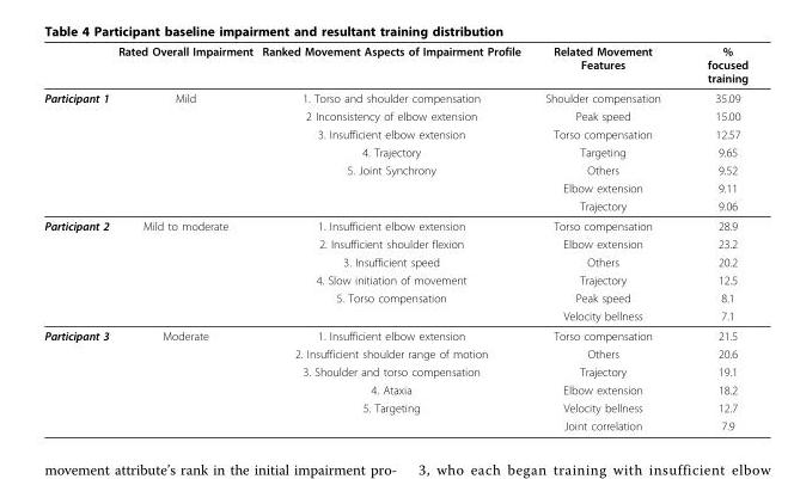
<table><thead><tr><td></td><td>Rated Overall Impairment</td><td>Ranked Movement Aspects of Impairment Profile</td><td>Related Movement Features</td><td>% focused training</td></tr></thead><tbody><tr><td rowspan="7">Participant 1</td><td>Mild</td><td>1. Torso and shoulder compensation</td><td>Shoulder compensation</td><td>35.09</td></tr><tr><td></td><td>2 Inconsistency of elbow extension</td><td>Peak speed</td><td>15.00</td></tr><tr><td></td><td>3. Insufficient elbow extension</td><td>Torso compensation</td><td>12.57</td></tr><tr><td></td><td>4. Trajectory</td><td>Targeting</td><td>9.65</td></tr><tr><td></td><td>5. Joint Synchrony</td><td>Others</td><td>9.52</td></tr><tr><td></td><td></td><td>Elbow extension</td><td>9.11</td></tr><tr><td></td><td></td><td>Trajectory</td><td>9.06</td></tr><tr><td rowspan="6">Participant 2</td><td>Mild to moderate</td><td>1. Insufficient elbow extension</td><td>Torso compensation</td><td>28.9</td></tr><tr><td></td><td>2. Insufficient shoulder flexion</td><td>Elbow extension</td><td>23.2</td></tr><tr><td></td><td>3. Insufficient speed</td><td>Others</td><td>20.2</td></tr><tr><td></td><td>4. Slow initiation of movement</td><td>Trajectory</td><td>12.5</td></tr><tr><td></td><td>5. Torso compensation</td><td>Peak speed</td><td>8.1</td></tr><tr><td></td><td></td><td>Velocity bellness</td><td>7.1</td></tr><tr><td rowspan="6">Participant 3</td><td>Moderate</td><td>1. Insufficient elbow extension</td><td>Torso compensation</td><td>21.5</td></tr><tr><td></td><td>2. Insufficient shoulder range of motion</td><td>Others</td><td>20.6</td></tr><tr><td></td><td>3. Shoulder and torso compensation</td><td>Trajectory</td><td>19.1</td></tr><tr><td></td><td>4. Ataxia</td><td>Elbow extension</td><td>18.2</td></tr><tr><td></td><td>5. Targeting</td><td>Velocity bellness</td><td>12.7</td></tr><tr><td></td><td></td><td>Joint correlation</td><td>7.9</td></tr></tbody></table>